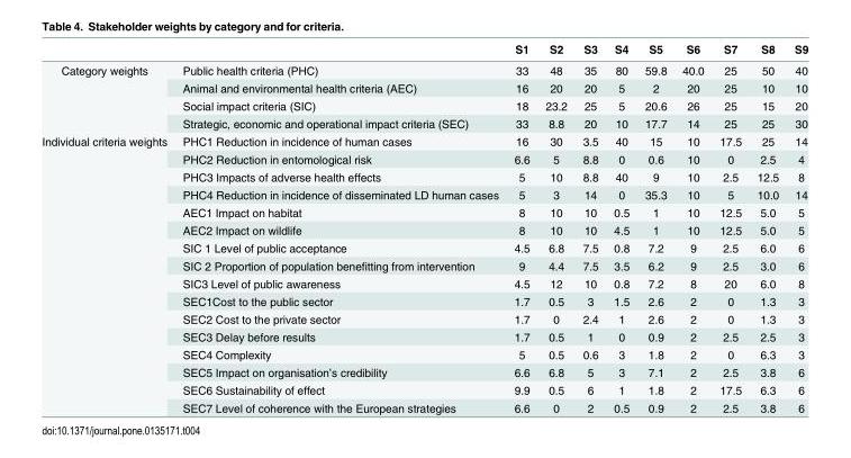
<table><thead><tr><td></td><td></td><td>S1</td><td>S2</td><td>S3</td><td>S4</td><td>S5</td><td>S6</td><td>S7</td><td>S8</td><td>S9</td></tr></thead><tbody><tr><td rowspan="4">Category weights</td><td>Public health criteria (PHC)</td><td>33</td><td>48</td><td>35</td><td>80</td><td>59.8</td><td>40.0</td><td>25</td><td>50</td><td>40</td></tr><tr><td>Animal and environmental health criteria (AEC)</td><td>16</td><td>20</td><td>20</td><td>5</td><td>2</td><td>20</td><td>25</td><td>10</td><td>10</td></tr><tr><td>Social impact criteria (SIC)</td><td>18</td><td>23.2</td><td>25</td><td>5</td><td>20.6</td><td>26</td><td>25</td><td>15</td><td>20</td></tr><tr><td>Strategic, economic and operational impact criteria (SEC)</td><td>33</td><td>8.8</td><td>20</td><td>10</td><td>17.7</td><td>14</td><td>25</td><td>25</td><td>30</td></tr><tr><td rowspan="16">Individual criteria weights</td><td>PHC1 Reduction in incidence of human cases</td><td>16</td><td>30</td><td>3.5</td><td>40</td><td>15</td><td>10</td><td>17.5</td><td>25</td><td>14</td></tr><tr><td>PHC2 Reduction in entomological risk</td><td>6.6</td><td>5</td><td>8.8</td><td>0</td><td>0.6</td><td>10</td><td>0</td><td>2.5</td><td>4</td></tr><tr><td>PHC3 Impacts of adverse health effects</td><td>5</td><td>10</td><td>8.8</td><td>40</td><td>9</td><td>10</td><td>2.5</td><td>12.5</td><td>8</td></tr><tr><td>PHC4 Reduction in incidence of disseminated LD human cases</td><td>5</td><td>3</td><td>14</td><td>0</td><td>35.3</td><td>10</td><td>5</td><td>10.0</td><td>14</td></tr><tr><td>AEC1 Impact on habitat</td><td>8</td><td>10</td><td>10</td><td>0.5</td><td>1</td><td>10</td><td>12.5</td><td>5.0</td><td>5</td></tr><tr><td>AEC2 Impact on wildlife</td><td>8</td><td>10</td><td>10</td><td>4.5</td><td>1</td><td>10</td><td>12.5</td><td>5.0</td><td>5</td></tr><tr><td>SIC 1 Level of public acceptance</td><td>4.5</td><td>6.8</td><td>7.5</td><td>0.8</td><td>7.2</td><td>9</td><td>2.5</td><td>6.0</td><td>6</td></tr><tr><td>SIC 2 Proportion of population benefitting from intervention</td><td>9</td><td>4.4</td><td>7.5</td><td>3.5</td><td>6.2</td><td>9</td><td>2.5</td><td>3.0</td><td>6</td></tr><tr><td>SIC3 Level of public awareness</td><td>4.5</td><td>12</td><td>10</td><td>0.8</td><td>7.2</td><td>8</td><td>20</td><td>6.0</td><td>8</td></tr><tr><td>SEC1Cost to the public sector</td><td>1.7</td><td>0.5</td><td>3</td><td>1.5</td><td>2.6</td><td>2</td><td>0</td><td>1.3</td><td>3</td></tr><tr><td>SEC2 Cost to the private sector</td><td>1.7</td><td>0</td><td>2.4</td><td>1</td><td>2.6</td><td>2</td><td>0</td><td>1.3</td><td>3</td></tr><tr><td>SEC3 Delay before results</td><td>1.7</td><td>0.5</td><td>1</td><td>0</td><td>0.9</td><td>2</td><td>2.5</td><td>2.5</td><td>3</td></tr><tr><td>SEC4 Complexity</td><td>5</td><td>0.5</td><td>0.6</td><td>3</td><td>1.8</td><td>2</td><td>0</td><td>6.3</td><td>3</td></tr><tr><td>SEC5 Impact on organisation’s credibility</td><td>6.6</td><td>6.8</td><td>5</td><td>3</td><td>7.1</td><td>2</td><td>2.5</td><td>3.8</td><td>6</td></tr><tr><td>SEC6 Sustainability of effect</td><td>9.9</td><td>0.5</td><td>6</td><td>1</td><td>1.8</td><td>2</td><td>17.5</td><td>6.3</td><td>6</td></tr><tr><td>SEC7 Level of coherence with the European strategies</td><td>6.6</td><td>0</td><td>2</td><td>0.5</td><td>0.9</td><td>2</td><td>2.5</td><td>3.8</td><td>6</td></tr></tbody></table>